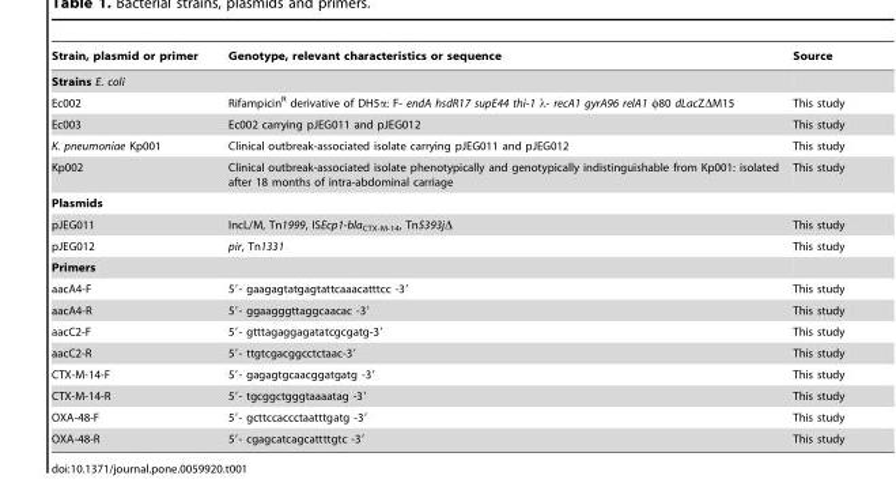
<table><thead><tr><td>Strain, plasmid or primer</td><td>Genotype, relevant characteristics or sequence</td><td>Source</td></tr></thead><tbody><tr><td colspan="3">Strains E. coli</td></tr><tr><td>Ec002</td><td>Rifampicin<sup>R</sup> derivative of DH5α: F- endA hsdR17 supE44 thi-1 λ- recA1 gyrA96 relA1 φ80 dLacZΔM15</td><td>This study</td></tr><tr><td>Ec003</td><td>Ec002 carrying pJEG011 and pJEG012</td><td>This study</td></tr><tr><td>K. pneumoniae Kp001</td><td>Clinical outbreak-associated isolate carrying pJEG011 and pJEG012</td><td>This study</td></tr><tr><td>Kp002</td><td>Clinical outbreak-associated isolate phenotypically and genotypically indistinguishable from Kp001: isolated after 18 months of intra-abdominal carriage</td><td>This study</td></tr><tr><td colspan="3">Plasmids</td></tr><tr><td>pJEG011</td><td>IncL/M, Tn1999, ISEcp1-bla<sub>CTX-M-14</sub>, Tn5393jΔ</td><td>This study</td></tr><tr><td>pJEG012</td><td>pir, Tn1331</td><td>This study</td></tr><tr><td colspan="3">Primers</td></tr><tr><td>aacA4-F</td><td>5′- gaagagtatgagtattcaaacatttcc -3′</td><td>This study</td></tr><tr><td>aacA4-R</td><td>5′- ggaagggttaggcaacac -3′</td><td>This study</td></tr><tr><td>aacC2-F</td><td>5′- gtttagaggagatatcgcgatg-3′</td><td>This study</td></tr><tr><td>aacC2-R</td><td>5′- ttgtcgacggcctctaac-3′</td><td>This study</td></tr><tr><td>CTX-M-14-F</td><td>5′- gagagtgcaacggatgatg -3′</td><td>This study</td></tr><tr><td>CTX-M-14-R</td><td>5′- tgcggctgggtaaaatag -3′</td><td>This study</td></tr><tr><td>OXA-48-F</td><td>5′- gcttccaccctaatttgatg -3′</td><td>This study</td></tr><tr><td>OXA-48-R</td><td>5′- cgagcatcagcattttgtc -3′</td><td>This study</td></tr></tbody></table>